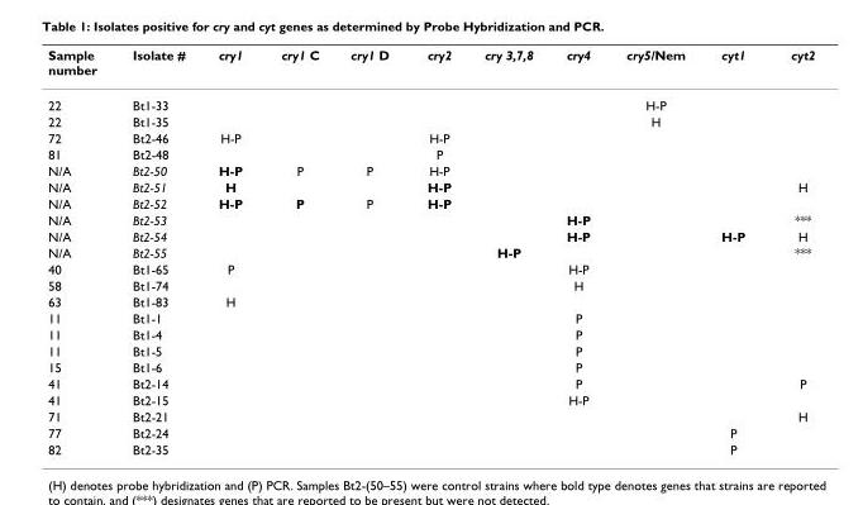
<table><thead><tr><td>Sample number</td><td>Isolate #</td><td>cry1</td><td>cry1 C</td><td>cry1 D</td><td>cry2</td><td>cry 3,7,8</td><td>cry4</td><td>cry5/Nem</td><td>cyt1</td><td>cyt2</td></tr></thead><tbody><tr><td>22</td><td>Bt1-33</td><td></td><td></td><td></td><td></td><td></td><td></td><td>H-P</td><td></td><td></td></tr><tr><td>22</td><td>Bt1-35</td><td></td><td></td><td></td><td></td><td></td><td></td><td>H</td><td></td><td></td></tr><tr><td>72</td><td>Bt2-46</td><td>H-P</td><td></td><td></td><td>H-P</td><td></td><td></td><td></td><td></td><td></td></tr><tr><td>81</td><td>Bt2-48</td><td></td><td></td><td></td><td>P</td><td></td><td></td><td></td><td></td><td></td></tr><tr><td>N/A</td><td>Bt2-50</td><td>H-P</td><td>P</td><td>P</td><td>H-P</td><td></td><td></td><td></td><td></td><td></td></tr><tr><td>N/A</td><td>Bt2-51</td><td>H</td><td></td><td></td><td>H-P</td><td></td><td></td><td></td><td></td><td>H</td></tr><tr><td>N/A</td><td>Bt2-52</td><td>H-P</td><td>P</td><td>P</td><td>H-P</td><td></td><td></td><td></td><td></td><td></td></tr><tr><td>N/A</td><td>Bt2-53</td><td></td><td></td><td></td><td></td><td></td><td>H-P</td><td></td><td></td><td>***</td></tr><tr><td>N/A</td><td>Bt2-54</td><td></td><td></td><td></td><td></td><td></td><td>H-P</td><td></td><td>H-P</td><td>H</td></tr><tr><td>N/A</td><td>Bt2-55</td><td></td><td></td><td></td><td></td><td>H-P</td><td></td><td></td><td></td><td>***</td></tr><tr><td>40</td><td>Bt1-65</td><td>P</td><td></td><td></td><td></td><td></td><td>H-P</td><td></td><td></td><td></td></tr><tr><td>58</td><td>Bt1-74</td><td></td><td></td><td></td><td></td><td></td><td>H</td><td></td><td></td><td></td></tr><tr><td>63</td><td>Bt1-83</td><td>H</td><td></td><td></td><td></td><td></td><td></td><td></td><td></td><td></td></tr><tr><td>11</td><td>Bt1-1</td><td></td><td></td><td></td><td></td><td></td><td>P</td><td></td><td></td><td></td></tr><tr><td>11</td><td>Bt1-4</td><td></td><td></td><td></td><td></td><td></td><td>P</td><td></td><td></td><td></td></tr><tr><td>11</td><td>Bt1-5</td><td></td><td></td><td></td><td></td><td></td><td>P</td><td></td><td></td><td></td></tr><tr><td>15</td><td>Bt1-6</td><td></td><td></td><td></td><td></td><td></td><td>P</td><td></td><td></td><td></td></tr><tr><td>41</td><td>Bt2-14</td><td></td><td></td><td></td><td></td><td></td><td>P</td><td></td><td></td><td>P</td></tr><tr><td>41</td><td>Bt2-15</td><td></td><td></td><td></td><td></td><td></td><td>H-P</td><td></td><td></td><td></td></tr><tr><td>71</td><td>Bt2-21</td><td></td><td></td><td></td><td></td><td></td><td></td><td></td><td></td><td>H</td></tr><tr><td>77</td><td>Bt2-24</td><td></td><td></td><td></td><td></td><td></td><td></td><td></td><td>P</td><td></td></tr><tr><td>82</td><td>Bt2-35</td><td></td><td></td><td></td><td></td><td></td><td></td><td></td><td>P</td><td></td></tr></tbody></table>